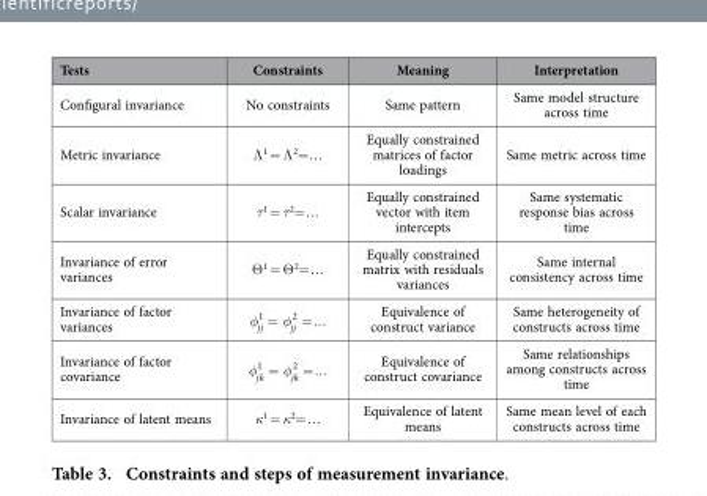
<table><thead><tr><td>Tests</td><td>Constraints</td><td>Meaning</td><td>Interpretation</td></tr></thead><tbody><tr><td>Configural invariance</td><td>No constraints</td><td>Same pattern</td><td>Same model structure across time</td></tr><tr><td>Metric invariance</td><td>Λ <sup>1</sup> = Λ <sup>2</sup>= …</td><td>Equally constrained matrices of factor loadings</td><td>Same metric across time</td></tr><tr><td>Scalar invariance</td><td>τ<sup>1</sup> = τ<sup>2</sup>= …</td><td>Equally constrained vector with item intercepts</td><td>Same systematic response bias across time</td></tr><tr><td>Invariance of error variances</td><td>Θ <sup>1</sup> = Θ <sup>2</sup>= …</td><td>Equally constrained matrix with residuals variances</td><td>Same internal consistency across time</td></tr><tr><td>Invariance of factor variances</td><td>φ φ = =... jj jj 1 2</td><td>Equivalence of construct variance</td><td>Same heterogeneity of constructs across time</td></tr><tr><td>Invariance of factor covariance</td><td>φ φ = =... jk jk 1 2</td><td>Equivalence of construct covariance</td><td>Same relationships among constructs across time</td></tr><tr><td>Invariance of latent means</td><td>κ<sup>1</sup> = κ<sup>2</sup>= …</td><td>Equivalence of latent means</td><td>Same mean level of each constructs across time</td></tr></tbody></table>